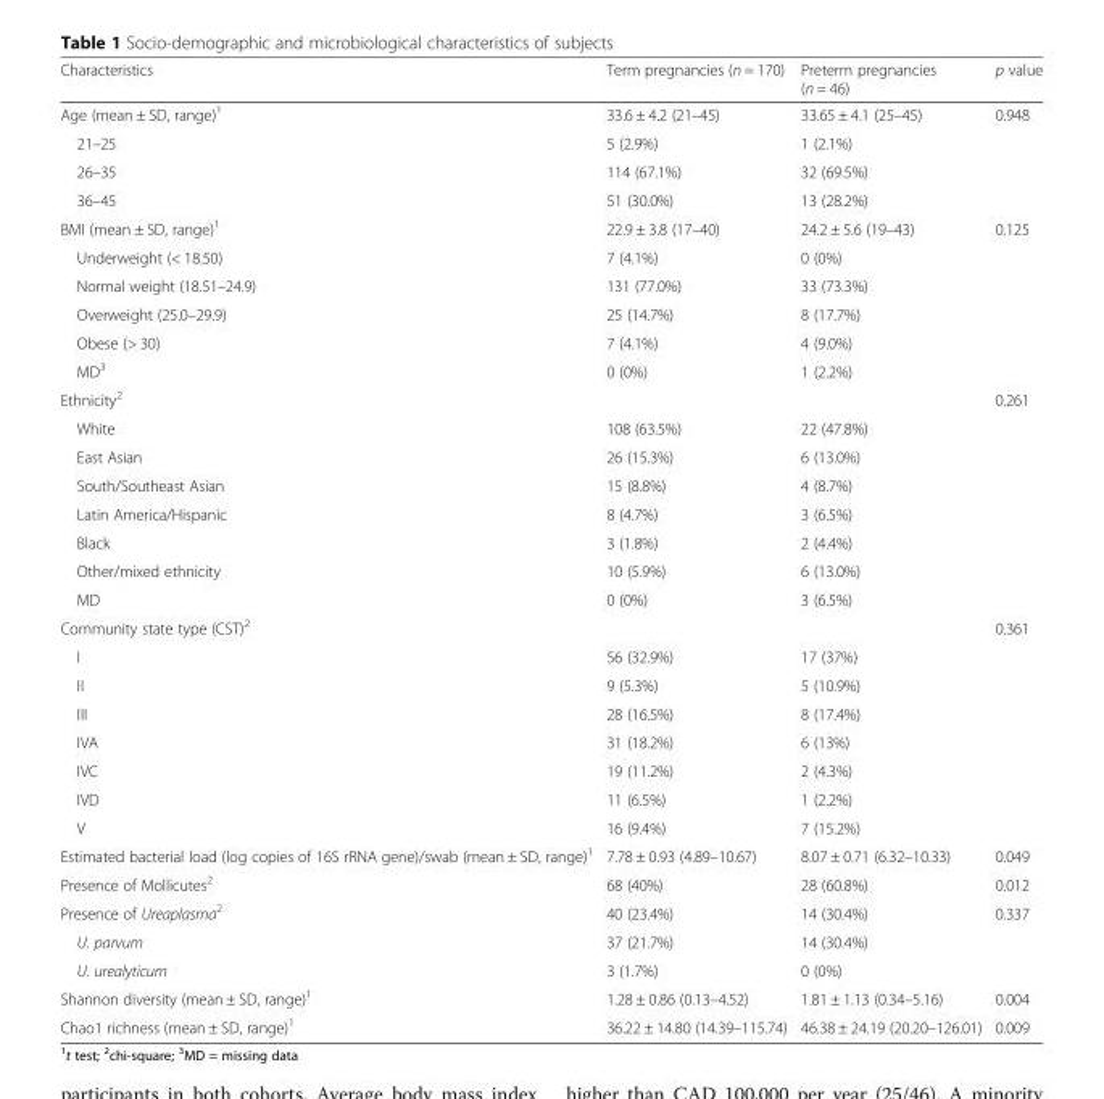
<table><thead><tr><td>Characteristics</td><td>Term pregnancies (n = 170)</td><td>Preterm pregnancies (n = 46)</td><td>p value</td></tr></thead><tbody><tr><td>Age (mean ± SD, range)<sup>1</sup></td><td>33.6 ± 4.2 (21–45)</td><td>33.65 ± 4.1 (25–45)</td><td>0.948</td></tr><tr><td>21–25</td><td>5 (2.9%)</td><td>1 (2.1%)</td><td rowspan="3"></td></tr><tr><td>26–35</td><td>114 (67.1%)</td><td>32 (69.5%)</td></tr><tr><td>36–45</td><td>51 (30.0%)</td><td>13 (28.2%)</td></tr><tr><td>BMI (mean ± SD, range)<sup>1</sup></td><td>22.9 ± 3.8 (17–40)</td><td>24.2 ± 5.6 (19–43)</td><td>0.125</td></tr><tr><td>Underweight (&lt; 18.50)</td><td>7 (4.1%)</td><td>0 (0%)</td><td rowspan="5"></td></tr><tr><td>Normal weight (18.51–24.9)</td><td>131 (77.0%)</td><td>33 (73.3%)</td></tr><tr><td>Overweight (25.0–29.9)</td><td>25 (14.7%)</td><td>8 (17.7%)</td></tr><tr><td>Obese (&gt; 30)</td><td>7 (4.1%)</td><td>4 (9.0%)</td></tr><tr><td>MD<sup>3</sup></td><td>0 (0%)</td><td>1 (2.2%)</td></tr><tr><td colspan="3">Ethnicity<sup>2</sup></td><td>0.261</td></tr><tr><td>White</td><td>108 (63.5%)</td><td>22 (47.8%)</td><td rowspan="7"></td></tr><tr><td>East Asian</td><td>26 (15.3%)</td><td>6 (13.0%)</td></tr><tr><td>South/Southeast Asian</td><td>15 (8.8%)</td><td>4 (8.7%)</td></tr><tr><td>Latin America/Hispanic</td><td>8 (4.7%)</td><td>3 (6.5%)</td></tr><tr><td>Black</td><td>3 (1.8%)</td><td>2 (4.4%)</td></tr><tr><td>Other/mixed ethnicity</td><td>10 (5.9%)</td><td>6 (13.0%)</td></tr><tr><td>MD</td><td>0 (0%)</td><td>3 (6.5%)</td></tr><tr><td colspan="3">Community state type (CST)<sup>2</sup></td><td>0.361</td></tr><tr><td>I</td><td>56 (32.9%)</td><td>17 (37%)</td><td rowspan="7"></td></tr><tr><td>II</td><td>9 (5.3%)</td><td>5 (10.9%)</td></tr><tr><td>III</td><td>28 (16.5%)</td><td>8 (17.4%)</td></tr><tr><td>IVA</td><td>31 (18.2%)</td><td>6 (13%)</td></tr><tr><td>IVC</td><td>19 (11.2%)</td><td>2 (4.3%)</td></tr><tr><td>IVD</td><td>11 (6.5%)</td><td>1 (2.2%)</td></tr><tr><td>V</td><td>16 (9.4%)</td><td>7 (15.2%)</td></tr><tr><td>Estimated bacterial load (log copies of 16S rRNA gene)/swab (mean ± SD, range)<sup>1</sup></td><td>7.78 ± 0.93 (4.89–10.67)</td><td>8.07 ± 0.71 (6.32–10.33)</td><td>0.049</td></tr><tr><td>Presence of Mollicutes<sup>2</sup></td><td>68 (40%)</td><td>28 (60.8%)</td><td>0.012</td></tr><tr><td>Presence of Ureaplasma<sup>2</sup></td><td>40 (23.4%)</td><td>14 (30.4%)</td><td>0.337</td></tr><tr><td>U. parvum</td><td>37 (21.7%)</td><td>14 (30.4%)</td><td rowspan="2"></td></tr><tr><td>U. urealyticum</td><td>3 (1.7%)</td><td>0 (0%)</td></tr><tr><td>Shannon diversity (mean ± SD, range)<sup>1</sup></td><td>1.28 ± 0.86 (0.13–4.52)</td><td>1.81 ± 1.13 (0.34–5.16)</td><td>0.004</td></tr><tr><td>Chao1 richness (mean ± SD, range)<sup>1</sup></td><td>36.22 ± 14.80 (14.39–115.74)</td><td>46.38 ± 24.19 (20.20–126.01)</td><td>0.009</td></tr></tbody></table>